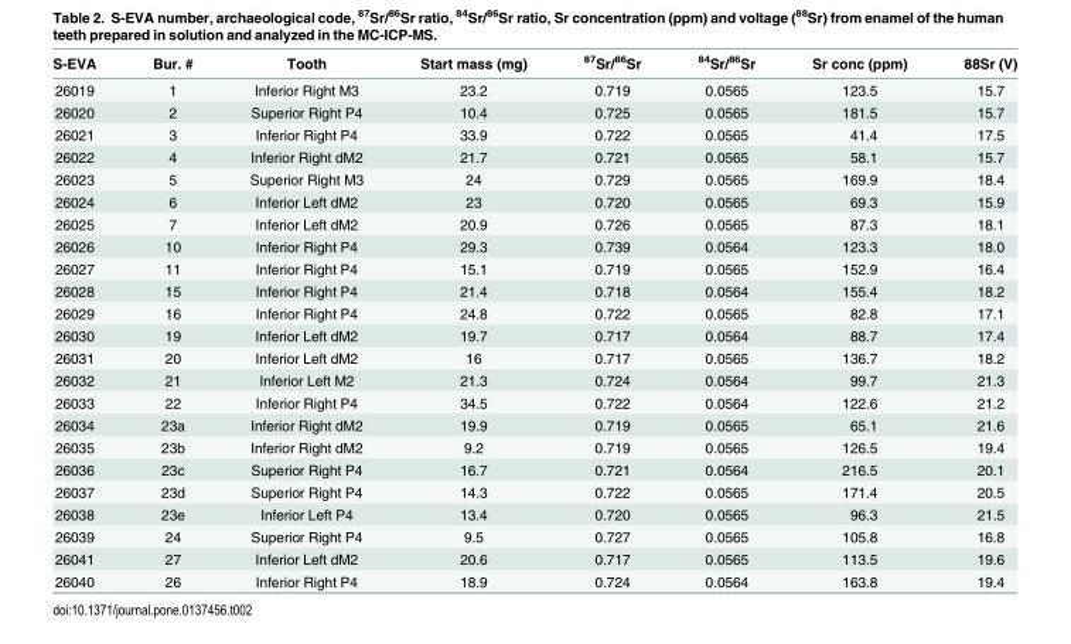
<table><thead><tr><td>S-EVA</td><td>Bur. #</td><td>Tooth</td><td>Start mass (mg)</td><td><sup>87</sup>Sr/<sup>86</sup>Sr</td><td><sup>84</sup>Sr/<sup>86</sup>Sr</td><td>Sr conc (ppm)</td><td>88Sr (V)</td></tr></thead><tbody><tr><td>26019</td><td>1</td><td>Inferior Right M3</td><td>23.2</td><td>0.719</td><td>0.0565</td><td>123.5</td><td>15.7</td></tr><tr><td>26020</td><td>2</td><td>Superior Right P4</td><td>10.4</td><td>0.725</td><td>0.0565</td><td>181.5</td><td>15.7</td></tr><tr><td>26021</td><td>3</td><td>Inferior Right P4</td><td>33.9</td><td>0.722</td><td>0.0565</td><td>41.4</td><td>17.5</td></tr><tr><td>26022</td><td>4</td><td>Inferior Right dM2</td><td>21.7</td><td>0.721</td><td>0.0565</td><td>58.1</td><td>15.7</td></tr><tr><td>26023</td><td>5</td><td>Superior Right M3</td><td>24</td><td>0.729</td><td>0.0565</td><td>169.9</td><td>18.4</td></tr><tr><td>26024</td><td>6</td><td>Inferior Left dM2</td><td>23</td><td>0.720</td><td>0.0565</td><td>69.3</td><td>15.9</td></tr><tr><td>26025</td><td>7</td><td>Inferior Left dM2</td><td>20.9</td><td>0.726</td><td>0.0565</td><td>87.3</td><td>18.1</td></tr><tr><td>26026</td><td>10</td><td>Inferior Right P4</td><td>29.3</td><td>0.739</td><td>0.0564</td><td>123.3</td><td>18.0</td></tr><tr><td>26027</td><td>11</td><td>Inferior Right P4</td><td>15.1</td><td>0.719</td><td>0.0565</td><td>152.9</td><td>16.4</td></tr><tr><td>26028</td><td>15</td><td>Inferior Right P4</td><td>21.4</td><td>0.718</td><td>0.0564</td><td>155.4</td><td>18.2</td></tr><tr><td>26029</td><td>16</td><td>Inferior Right P4</td><td>24.8</td><td>0.722</td><td>0.0565</td><td>82.8</td><td>17.1</td></tr><tr><td>26030</td><td>19</td><td>Inferior Left dM2</td><td>19.7</td><td>0.717</td><td>0.0564</td><td>88.7</td><td>17.4</td></tr><tr><td>26031</td><td>20</td><td>Inferior Left dM2</td><td>16</td><td>0.717</td><td>0.0565</td><td>136.7</td><td>18.2</td></tr><tr><td>26032</td><td>21</td><td>Inferior Left M2</td><td>21.3</td><td>0.724</td><td>0.0564</td><td>99.7</td><td>21.3</td></tr><tr><td>26033</td><td>22</td><td>Inferior Right P4</td><td>34.5</td><td>0.722</td><td>0.0564</td><td>122.6</td><td>21.2</td></tr><tr><td>26034</td><td>23a</td><td>Inferior Right dM2</td><td>19.9</td><td>0.719</td><td>0.0565</td><td>65.1</td><td>21.6</td></tr><tr><td>26035</td><td>23b</td><td>Inferior Right dM2</td><td>9.2</td><td>0.719</td><td>0.0565</td><td>126.5</td><td>19.4</td></tr><tr><td>26036</td><td>23c</td><td>Superior Right P4</td><td>16.7</td><td>0.721</td><td>0.0564</td><td>216.5</td><td>20.1</td></tr><tr><td>26037</td><td>23d</td><td>Superior Right P4</td><td>14.3</td><td>0.722</td><td>0.0565</td><td>171.4</td><td>20.5</td></tr><tr><td>26038</td><td>23e</td><td>Inferior Left P4</td><td>13.4</td><td>0.720</td><td>0.0565</td><td>96.3</td><td>21.5</td></tr><tr><td>26039</td><td>24</td><td>Superior Right P4</td><td>9.5</td><td>0.727</td><td>0.0565</td><td>105.8</td><td>16.8</td></tr><tr><td>26041</td><td>27</td><td>Inferior Left dM2</td><td>20.6</td><td>0.717</td><td>0.0565</td><td>113.5</td><td>19.6</td></tr><tr><td>26040</td><td>26</td><td>Inferior Right P4</td><td>18.9</td><td>0.724</td><td>0.0564</td><td>163.8</td><td>19.4</td></tr></tbody></table>